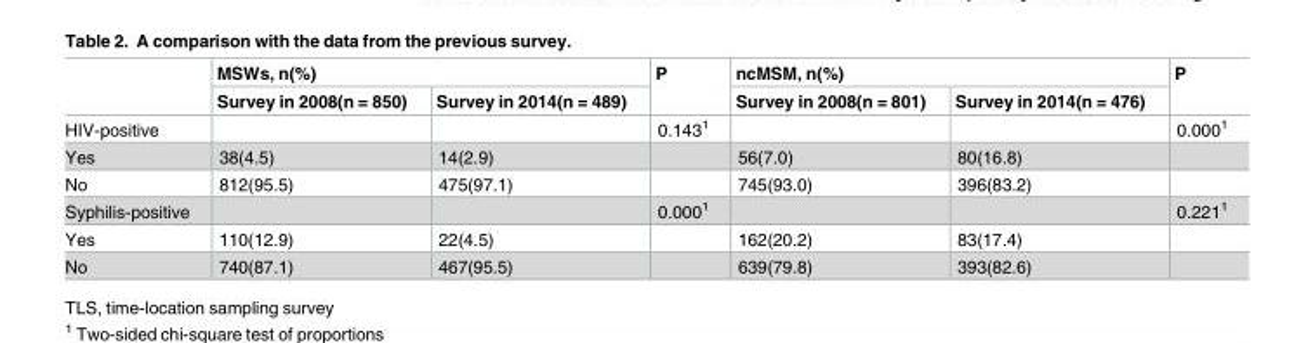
<table><thead><tr><td rowspan="2"></td><td colspan="2">MSWs, n(%)</td><td rowspan="2">P</td><td colspan="2">ncMSM, n(%)</td><td rowspan="2">P</td></tr><tr><td>Survey in 2008(n = 850)</td><td>Survey in 2014(n = 489)</td><td>Survey in 2008(n = 801)</td><td>Survey in 2014(n = 476)</td></tr></thead><tbody><tr><td>HIV-positive</td><td></td><td></td><td>0.143<sup>1</sup></td><td></td><td></td><td>0.000<sup>1</sup></td></tr><tr><td>Yes</td><td>38(4.5)</td><td>14(2.9)</td><td></td><td>56(7.0)</td><td>80(16.8)</td><td></td></tr><tr><td>No</td><td>812(95.5)</td><td>475(97.1)</td><td></td><td>745(93.0)</td><td>396(83.2)</td><td></td></tr><tr><td>Syphilis-positive</td><td></td><td></td><td>0.000<sup>1</sup></td><td></td><td></td><td>0.221<sup>1</sup></td></tr><tr><td>Yes</td><td>110(12.9)</td><td>22(4.5)</td><td></td><td>162(20.2)</td><td>83(17.4)</td><td></td></tr><tr><td>No</td><td>740(87.1)</td><td>467(95.5)</td><td></td><td>639(79.8)</td><td>393(82.6)</td><td></td></tr></tbody></table>